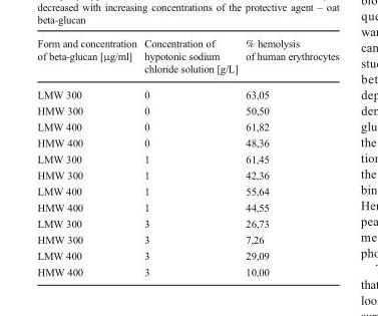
<table><thead><tr><td>Form and concentration of beta-glucan [μg/ml]</td><td>Concentration of hypotonic sodium chloride solution [g/L]</td><td>% hemolysis of human erythrocytes</td></tr></thead><tbody><tr><td>LMW 300</td><td>0</td><td>63,05</td></tr><tr><td>HMW 300</td><td>0</td><td>50,50</td></tr><tr><td>LMW 400</td><td>0</td><td>61,82</td></tr><tr><td>HMW 400</td><td>0</td><td>48,36</td></tr><tr><td>LMW 300</td><td>1</td><td>61,45</td></tr><tr><td>HMW 300</td><td>1</td><td>42,36</td></tr><tr><td>LMW 400</td><td>1</td><td>55,64</td></tr><tr><td>HMW 400</td><td>1</td><td>44,55</td></tr><tr><td>LMW 300</td><td>3</td><td>26,73</td></tr><tr><td>HMW 300</td><td>3</td><td>7,26</td></tr><tr><td>LMW 400</td><td>3</td><td>29,09</td></tr><tr><td>HMW 400</td><td>3</td><td>10,00</td></tr></tbody></table>